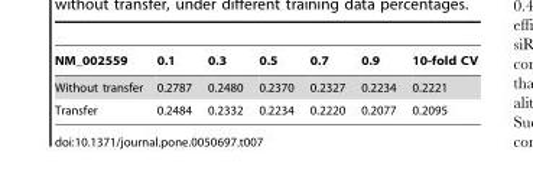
<table><thead><tr><td>NM_002559</td><td>0.1</td><td>0.3</td><td>0.5</td><td>0.7</td><td>0.9</td><td>10-fold CV</td></tr></thead><tbody><tr><td>Without transfer</td><td>0.2787</td><td>0.2480</td><td>0.2370</td><td>0.2327</td><td>0.2234</td><td>0.2221</td></tr><tr><td>Transfer</td><td>0.2484</td><td>0.2332</td><td>0.2234</td><td>0.2220</td><td>0.2077</td><td>0.2095</td></tr></tbody></table>